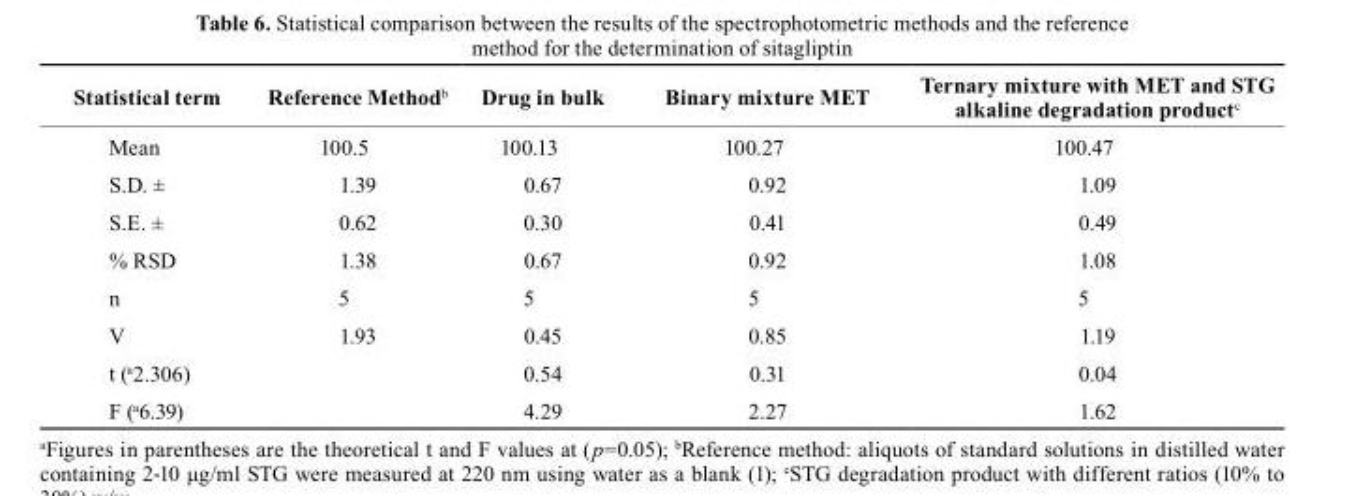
<table><thead><tr><td>statistical term</td><td>Reference Method<sup>b</sup></td><td>Drug in bulk</td><td>Binary mixture MET</td><td>Ternary mixture with MET and STG alkaline degradation product<sup>c</sup></td></tr></thead><tbody><tr><td>Mean</td><td>100.5</td><td>100.13</td><td>100.27</td><td>100.47</td></tr><tr><td>S.D. ±</td><td>1.39</td><td>0.67</td><td>0.92</td><td>1.09</td></tr><tr><td>S.E. ±</td><td>0.62</td><td>0.30</td><td>0.41</td><td>0.49</td></tr><tr><td>% RSD</td><td>1.38</td><td>0.67</td><td>0.92</td><td>1.08</td></tr><tr><td>n</td><td>5</td><td>5</td><td>5</td><td>5</td></tr><tr><td>V</td><td>1.93</td><td>0.45</td><td>0.85</td><td>1.19</td></tr><tr><td>t (a2.306)</td><td></td><td>0.54</td><td>0.31</td><td>0.04</td></tr><tr><td>F (a6.39)</td><td></td><td>4.29</td><td>2.27</td><td>1.62</td></tr></tbody></table>